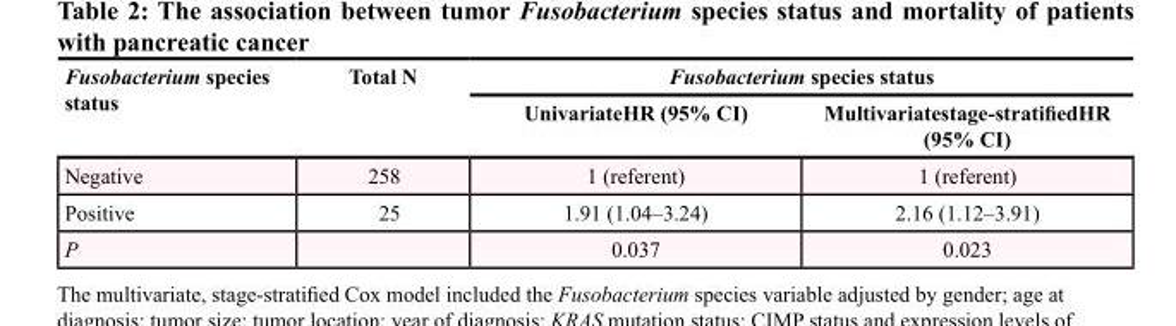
<table><thead><tr><td rowspan="2">Fusobacterium species status</td><td rowspan="2">Total N</td><td colspan="2">Fusobacterium species status</td></tr><tr><td>UnivariateHR (95% CI)</td><td>Multivariatestage-stratifiedHR (95% CI)</td></tr></thead><tbody><tr><td>Negative</td><td>258</td><td>1 (referent)</td><td>1 (referent)</td></tr><tr><td>Positive</td><td>25</td><td>1.91 (1.04–3.24)</td><td>2.16 (1.12–3.91)</td></tr><tr><td>P</td><td></td><td>0.037</td><td>0.023</td></tr></tbody></table>